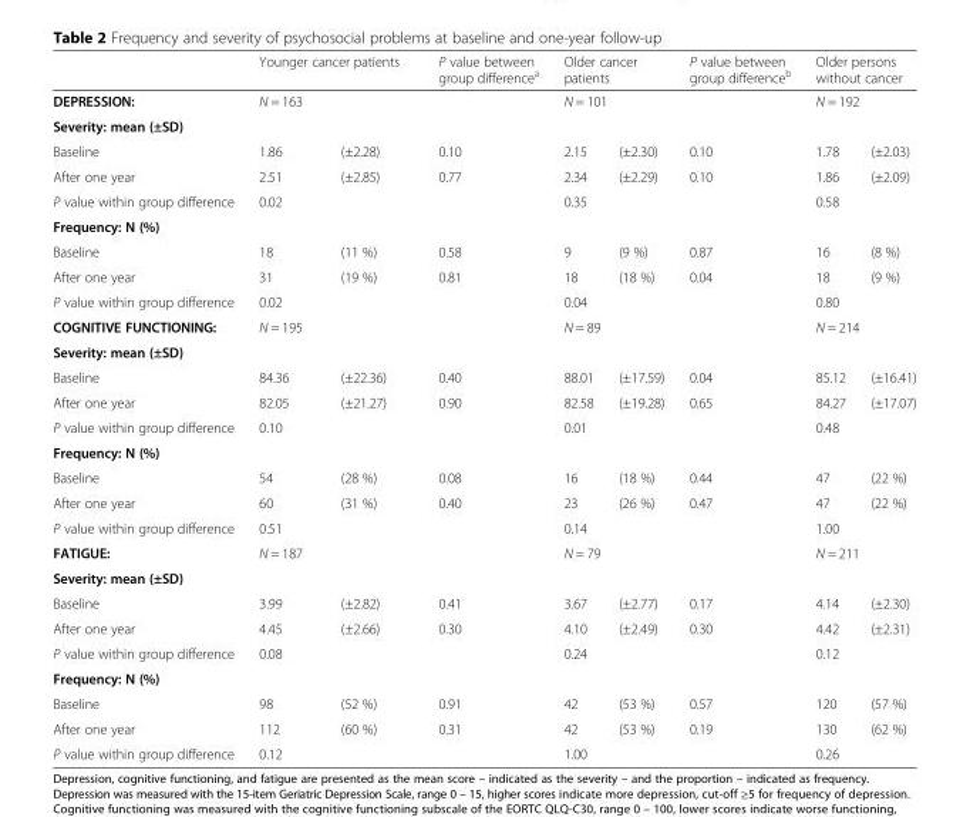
<table><thead><tr><td rowspan="3">DEPRESSION: Severity: mean (±SD)</td><td rowspan="2" colspan="2">Younger cancer patients N = 163</td><td rowspan="3">P value between group difference<sup>a</sup></td><td rowspan="2" colspan="2">Older cancer patients N = 101</td><td rowspan="3">P value between group difference<sup>b</sup></td><td rowspan="2" colspan="2">Older persons without cancer N = 192</td></tr><tr></tr><tr><td></td><td></td><td></td><td></td><td></td><td></td></tr></thead><tbody><tr><td>Baseline</td><td>1.86</td><td>(±2.28)</td><td>0.10</td><td>2.15</td><td>(±2.30)</td><td>0.10</td><td>1.78</td><td>(±2.03)</td></tr><tr><td>After one year</td><td>2.51</td><td>(±2.85)</td><td>0.77</td><td>2.34</td><td>(±2.29)</td><td>0.10</td><td>1.86</td><td>(±2.09)</td></tr><tr><td>P value within group difference</td><td colspan="2">0.02</td><td></td><td colspan="2">0.35</td><td></td><td colspan="2">0.58</td></tr><tr><td colspan="9">Frequency: N (%)</td></tr><tr><td>Baseline</td><td>18</td><td>(11 %)</td><td>0.58</td><td>9</td><td>(9 %)</td><td>0.87</td><td>16</td><td>(8 %)</td></tr><tr><td>After one year</td><td>31</td><td>(19 %)</td><td>0.81</td><td>18</td><td>(18 %)</td><td>0.04</td><td>18</td><td>(9 %)</td></tr><tr><td>P value within group difference</td><td colspan="2">0.02</td><td></td><td colspan="2">0.04</td><td></td><td colspan="2">0.80</td></tr><tr><td>COGNITIVE FUNCTIONING:</td><td colspan="2">N = 195</td><td></td><td colspan="2">N = 89</td><td></td><td colspan="2">N = 214</td></tr><tr><td colspan="9">Severity: mean (±SD)</td></tr><tr><td>Baseline</td><td>84.36</td><td>(±22.36)</td><td>0.40</td><td>88.01</td><td>(±17.59)</td><td>0.04</td><td>85.12</td><td>(±16.41)</td></tr><tr><td>After one year</td><td>82.05</td><td>(±21.27)</td><td>0.90</td><td>82.58</td><td>(±19.28)</td><td>0.65</td><td>84.27</td><td>(±17.07)</td></tr><tr><td>P value within group difference</td><td colspan="2">0.10</td><td></td><td colspan="2">0.01</td><td></td><td colspan="2">0.48</td></tr><tr><td colspan="9">Frequency: N (%)</td></tr><tr><td>Baseline</td><td>54</td><td>(28 %)</td><td>0.08</td><td>16</td><td>(18 %)</td><td>0.44</td><td>47</td><td>(22 %)</td></tr><tr><td>After one year</td><td>60</td><td>(31 %)</td><td>0.40</td><td>23</td><td>(26 %)</td><td>0.47</td><td>47</td><td>(22 %)</td></tr><tr><td>P value within group difference</td><td colspan="2">0.51</td><td></td><td colspan="2">0.14</td><td></td><td colspan="2">1.00</td></tr><tr><td>FATIGUE:</td><td colspan="2">N = 187</td><td></td><td colspan="2">N = 79</td><td></td><td colspan="2">N = 211</td></tr><tr><td colspan="9">Severity: mean (±SD)</td></tr><tr><td>Baseline</td><td>3.99</td><td>(±2.82)</td><td>0.41</td><td>3.67</td><td>(±2.77)</td><td>0.17</td><td>4.14</td><td>(±2.30)</td></tr><tr><td>After one year</td><td>4.45</td><td>(±2.66)</td><td>0.30</td><td>4.10</td><td>(±2.49)</td><td>0.30</td><td>4.42</td><td>(±2.31)</td></tr><tr><td>P value within group difference</td><td colspan="2">0.08</td><td></td><td colspan="2">0.24</td><td></td><td colspan="2">0.12</td></tr><tr><td colspan="9">Frequency: N (%)</td></tr><tr><td>Baseline</td><td>98</td><td>(52 %)</td><td>0.91</td><td>42</td><td>(53 %)</td><td>0.57</td><td>120</td><td>(57 %)</td></tr><tr><td>After one year</td><td>112</td><td>(60 %)</td><td>0.31</td><td>42</td><td>(53 %)</td><td>0.19</td><td>130</td><td>(62 %)</td></tr><tr><td>P value within group difference</td><td colspan="2">0.12</td><td></td><td colspan="2">1.00</td><td></td><td colspan="2">0.26</td></tr></tbody></table>